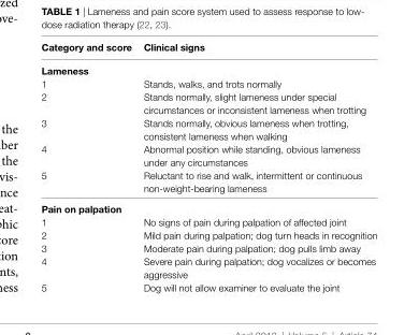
<table><thead><tr><td>category and score</td><td>clinical signs</td></tr></thead><tbody><tr><td colspan="2">lameness</td></tr><tr><td>1</td><td>Stands, walks, and trots normally</td></tr><tr><td>2</td><td>Stands normally, slight lameness under special circumstances or inconsistent lameness when trotting</td></tr><tr><td>3</td><td>Stands normally, obvious lameness when trotting, consistent lameness when walking</td></tr><tr><td>4</td><td>Abnormal position while standing, obvious lameness under any circumstances</td></tr><tr><td>5</td><td>Reluctant to rise and walk, intermittent or continuous non-weight-bearing lameness</td></tr><tr><td colspan="2">Pain on palpation</td></tr><tr><td>1</td><td>No signs of pain during palpation of affected joint</td></tr><tr><td>2</td><td>Mild pain during palpation; dog turn heads in recognition</td></tr><tr><td>3</td><td>Moderate pain during palpation; dog pulls limb away</td></tr><tr><td>4</td><td>Severe pain during palpation; dog vocalizes or becomes aggressive</td></tr><tr><td>5</td><td>Dog will not allow examiner to evaluate the joint</td></tr></tbody></table>